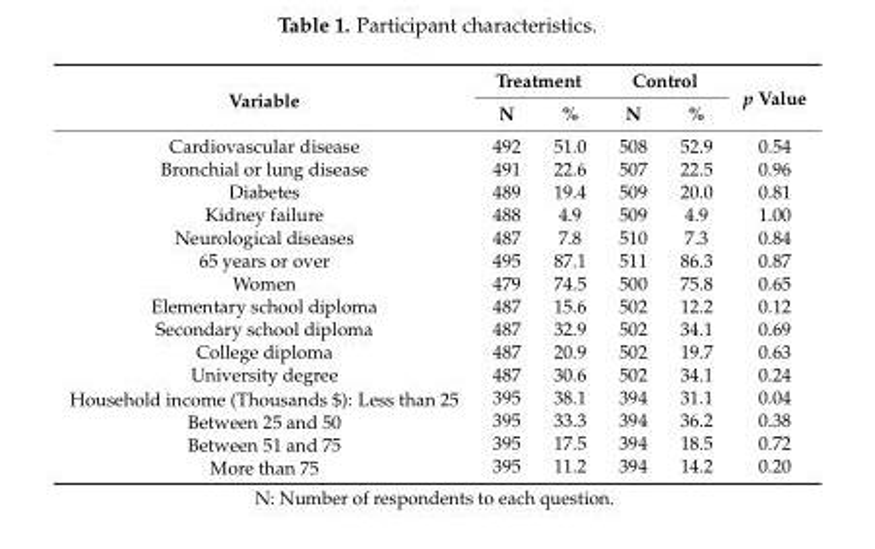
<table><thead><tr><td rowspan="2">Variable</td><td colspan="2">Treatment</td><td colspan="2">Control</td><td rowspan="2">p Value</td></tr><tr><td>N</td><td>%</td><td>N</td><td>%</td></tr></thead><tbody><tr><td>Cardiovascular disease</td><td>492</td><td>51.0</td><td>508</td><td>52.9</td><td>0.54</td></tr><tr><td>Bronchial or lung disease</td><td>491</td><td>22.6</td><td>507</td><td>22.5</td><td>0.96</td></tr><tr><td>Diabetes</td><td>489</td><td>19.4</td><td>509</td><td>20.0</td><td>0.81</td></tr><tr><td>Kidney failure</td><td>488</td><td>4.9</td><td>509</td><td>4.9</td><td>1.00</td></tr><tr><td>Neurological diseases</td><td>487</td><td>7.8</td><td>510</td><td>7.3</td><td>0.84</td></tr><tr><td>65 years or over</td><td>495</td><td>87.1</td><td>511</td><td>86.3</td><td>0.87</td></tr><tr><td>Women</td><td>479</td><td>74.5</td><td>500</td><td>75.8</td><td>0.65</td></tr><tr><td>Elementary school diploma</td><td>487</td><td>15.6</td><td>502</td><td>12.2</td><td>0.12</td></tr><tr><td>Secondary school diploma</td><td>487</td><td>32.9</td><td>502</td><td>34.1</td><td>0.69</td></tr><tr><td>College diploma</td><td>487</td><td>20.9</td><td>502</td><td>19.7</td><td>0.63</td></tr><tr><td>University degree</td><td>487</td><td>30.6</td><td>502</td><td>34.1</td><td>0.24</td></tr><tr><td rowspan="4">Household income (Thousands $): Less than 25 Between 25 and 50 Between 51 and 75 More than 75</td><td>395</td><td>38.1</td><td>394</td><td>31.1</td><td>0.04</td></tr><tr><td>395</td><td>33.3</td><td>394</td><td>36.2</td><td>0.38</td></tr><tr><td>395</td><td>17.5</td><td>394</td><td>18.5</td><td>0.72</td></tr><tr><td>395</td><td>11.2</td><td>394</td><td>14.2</td><td>0.20</td></tr></tbody></table>